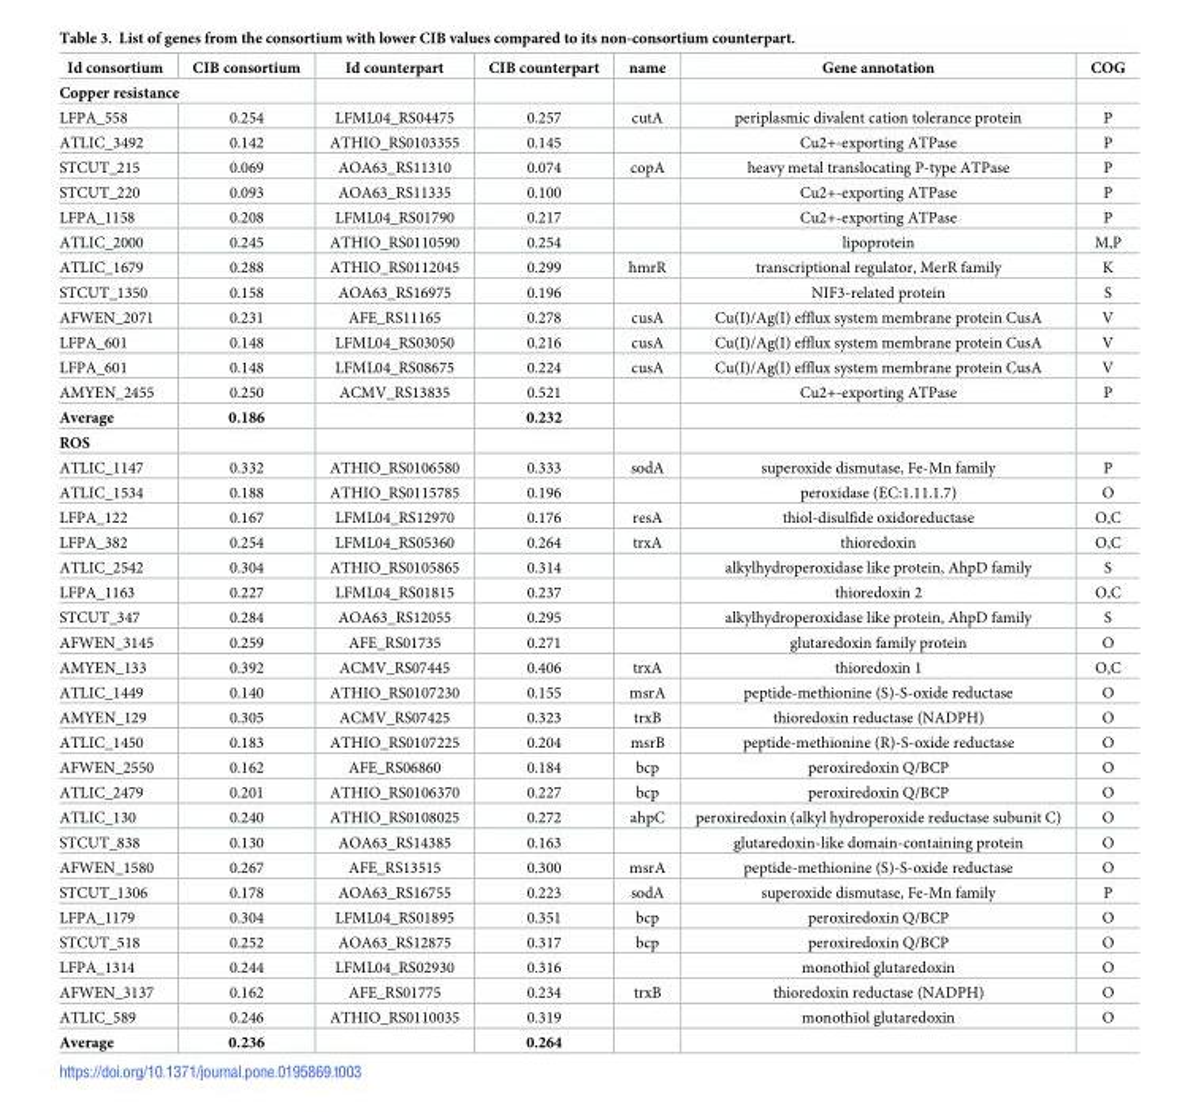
<table><thead><tr><td>Id consortium</td><td>CIB consortium</td><td>Id counterpart</td><td>CIB counterpart</td><td>name</td><td>Gene annotation</td><td>COG</td></tr></thead><tbody><tr><td colspan="7">Copper resistance</td></tr><tr><td>LFPA_558</td><td>0.254</td><td>LFML04_RS04475</td><td>0.257</td><td>cutA</td><td>periplasmic divalent cation tolerance protein</td><td>P</td></tr><tr><td>ATLIC_3492</td><td>0.142</td><td>ATHIO_RS0103355</td><td>0.145</td><td></td><td>Cu2+-exporting ATPase</td><td>P</td></tr><tr><td>STCUT_215</td><td>0.069</td><td>AOA63_RS11310</td><td>0.074</td><td>copA</td><td>heavy metal translocating P-type ATPase</td><td>P</td></tr><tr><td>STCUT_220</td><td>0.093</td><td>AOA63_RS11335</td><td>0.100</td><td></td><td>Cu2+-exporting ATPase</td><td>P</td></tr><tr><td>LFPA_1158</td><td>0.208</td><td>LFML04_RS01790</td><td>0.217</td><td></td><td>Cu2+-exporting ATPase</td><td>P</td></tr><tr><td>ATLIC_2000</td><td>0.245</td><td>ATHIO_RS0110590</td><td>0.254</td><td></td><td>lipoprotein</td><td>M,P</td></tr><tr><td>ATLIC_1679</td><td>0.288</td><td>ATHIO_RS0112045</td><td>0.299</td><td>hmrR</td><td>transcriptional regulator, MerR family</td><td>K</td></tr><tr><td>STCUT_1350</td><td>0.158</td><td>AOA63_RS16975</td><td>0.196</td><td></td><td>NIF3-related protein</td><td>S</td></tr><tr><td>AFWEN_2071</td><td>0.231</td><td>AFE_RS11165</td><td>0.278</td><td>cusA</td><td>Cu(I)/Ag(I) efflux system membrane protein CusA</td><td>V</td></tr><tr><td>LFPA_601</td><td>0.148</td><td>LFML04_RS03050</td><td>0.216</td><td>cusA</td><td>Cu(I)/Ag(I) efflux system membrane protein CusA</td><td>V</td></tr><tr><td>LFPA_601</td><td>0.148</td><td>LFML04_RS08675</td><td>0.224</td><td>cusA</td><td>Cu(I)/Ag(I) efflux system membrane protein CusA</td><td>V</td></tr><tr><td>AMYEN_2455</td><td>0.250</td><td>ACMV_RS13835</td><td>0.521</td><td></td><td>Cu2+-exporting ATPase</td><td>P</td></tr><tr><td>Average</td><td>0.186</td><td></td><td>0.232</td><td></td><td></td><td></td></tr><tr><td colspan="7">ROS</td></tr><tr><td>ATLIC_1147</td><td>0.332</td><td>ATHIO_RS0106580</td><td>0.333</td><td>sodA</td><td>superoxide dismutase, Fe-Mn family</td><td>P</td></tr><tr><td>ATLIC_1534</td><td>0.188</td><td>ATHIO_RS0115785</td><td>0.196</td><td></td><td>peroxidase (EC:1.11.1.7)</td><td>O</td></tr><tr><td>LFPA_122</td><td>0.167</td><td>LFML04_RS12970</td><td>0.176</td><td>resA</td><td>thiol-disulfide oxidoreductase</td><td>O,C</td></tr><tr><td>LFPA_382</td><td>0.254</td><td>LFML04_RS05360</td><td>0.264</td><td>trxA</td><td>thioredoxin</td><td>O,C</td></tr><tr><td>ATLIC_2542</td><td>0.304</td><td>ATHIO_RS0105865</td><td>0.314</td><td></td><td>alkylhydroperoxidase like protein, AhpD family</td><td>S</td></tr><tr><td>LFPA_1163</td><td>0.227</td><td>LFML04_RS01815</td><td>0.237</td><td></td><td>thioredoxin 2</td><td>O,C</td></tr><tr><td>STCUT_347</td><td>0.284</td><td>AOA63_RS12055</td><td>0.295</td><td></td><td>alkylhydroperoxidase like protein, AhpD family</td><td>S</td></tr><tr><td>AFWEN_3145</td><td>0.259</td><td>AFE_RS01735</td><td>0.271</td><td></td><td>glutaredoxin family protein</td><td>O</td></tr><tr><td>AMYEN_133</td><td>0.392</td><td>ACMV_RS07445</td><td>0.406</td><td>trxA</td><td>thioredoxin 1</td><td>O,C</td></tr><tr><td>ATLIC_1449</td><td>0.140</td><td>ATHIO_RS0107230</td><td>0.155</td><td>msrA</td><td>peptide-methionine (S)-S-oxide reductase</td><td>O</td></tr><tr><td>AMYEN_129</td><td>0.305</td><td>ACMV_RS07425</td><td>0.323</td><td>trxB</td><td>thioredoxin reductase (NADPH)</td><td>O</td></tr><tr><td>ATLIC_1450</td><td>0.183</td><td>ATHIO_RS0107225</td><td>0.204</td><td>msrB</td><td>peptide-methionine (R)-S-oxide reductase</td><td>O</td></tr><tr><td>AFWEN_2550</td><td>0.162</td><td>AFE_RS06860</td><td>0.184</td><td>bcp</td><td>peroxiredoxin Q/BCP</td><td>O</td></tr><tr><td>ATLIC_2479</td><td>0.201</td><td>ATHIO_RS0106370</td><td>0.227</td><td>bcp</td><td>peroxiredoxin Q/BCP</td><td>O</td></tr><tr><td>ATLIC_130</td><td>0.240</td><td>ATHIO_RS0108025</td><td>0.272</td><td>ahpC</td><td>peroxiredoxin (alkyl hydroperoxide reductase subunit C)</td><td>O</td></tr><tr><td>STCUT_838</td><td>0.130</td><td>AOA63_RS14385</td><td>0.163</td><td></td><td>glutaredoxin-like domain-containing protein</td><td>O</td></tr><tr><td>AFWEN_1580</td><td>0.267</td><td>AFE_RS13515</td><td>0.300</td><td>msrA</td><td>peptide-methionine (S)-S-oxide reductase</td><td>O</td></tr><tr><td>STCUT_1306</td><td>0.178</td><td>AOA63_RS16755</td><td>0.223</td><td>sodA</td><td>superoxide dismutase, Fe-Mn family</td><td>P</td></tr><tr><td>LFPA_1179</td><td>0.304</td><td>LFML04_RS01895</td><td>0.351</td><td>bcp</td><td>peroxiredoxin Q/BCP</td><td>O</td></tr><tr><td>STCUT_518</td><td>0.252</td><td>AOA63_RS12875</td><td>0.317</td><td>bcp</td><td>peroxiredoxin Q/BCP</td><td>O</td></tr><tr><td>LFPA_1314</td><td>0.244</td><td>LFML04_RS02930</td><td>0.316</td><td></td><td>monothiol glutaredoxin</td><td>O</td></tr><tr><td>AFWEN_3137</td><td>0.162</td><td>AFE_RS01775</td><td>0.234</td><td>trxB</td><td>thioredoxin reductase (NADPH)</td><td>O</td></tr><tr><td>ATLIC_589</td><td>0.246</td><td>ATHIO_RS0110035</td><td>0.319</td><td></td><td>monothiol glutaredoxin</td><td>O</td></tr><tr><td>Average</td><td>0.236</td><td></td><td>0.264</td><td></td><td></td><td></td></tr></tbody></table>